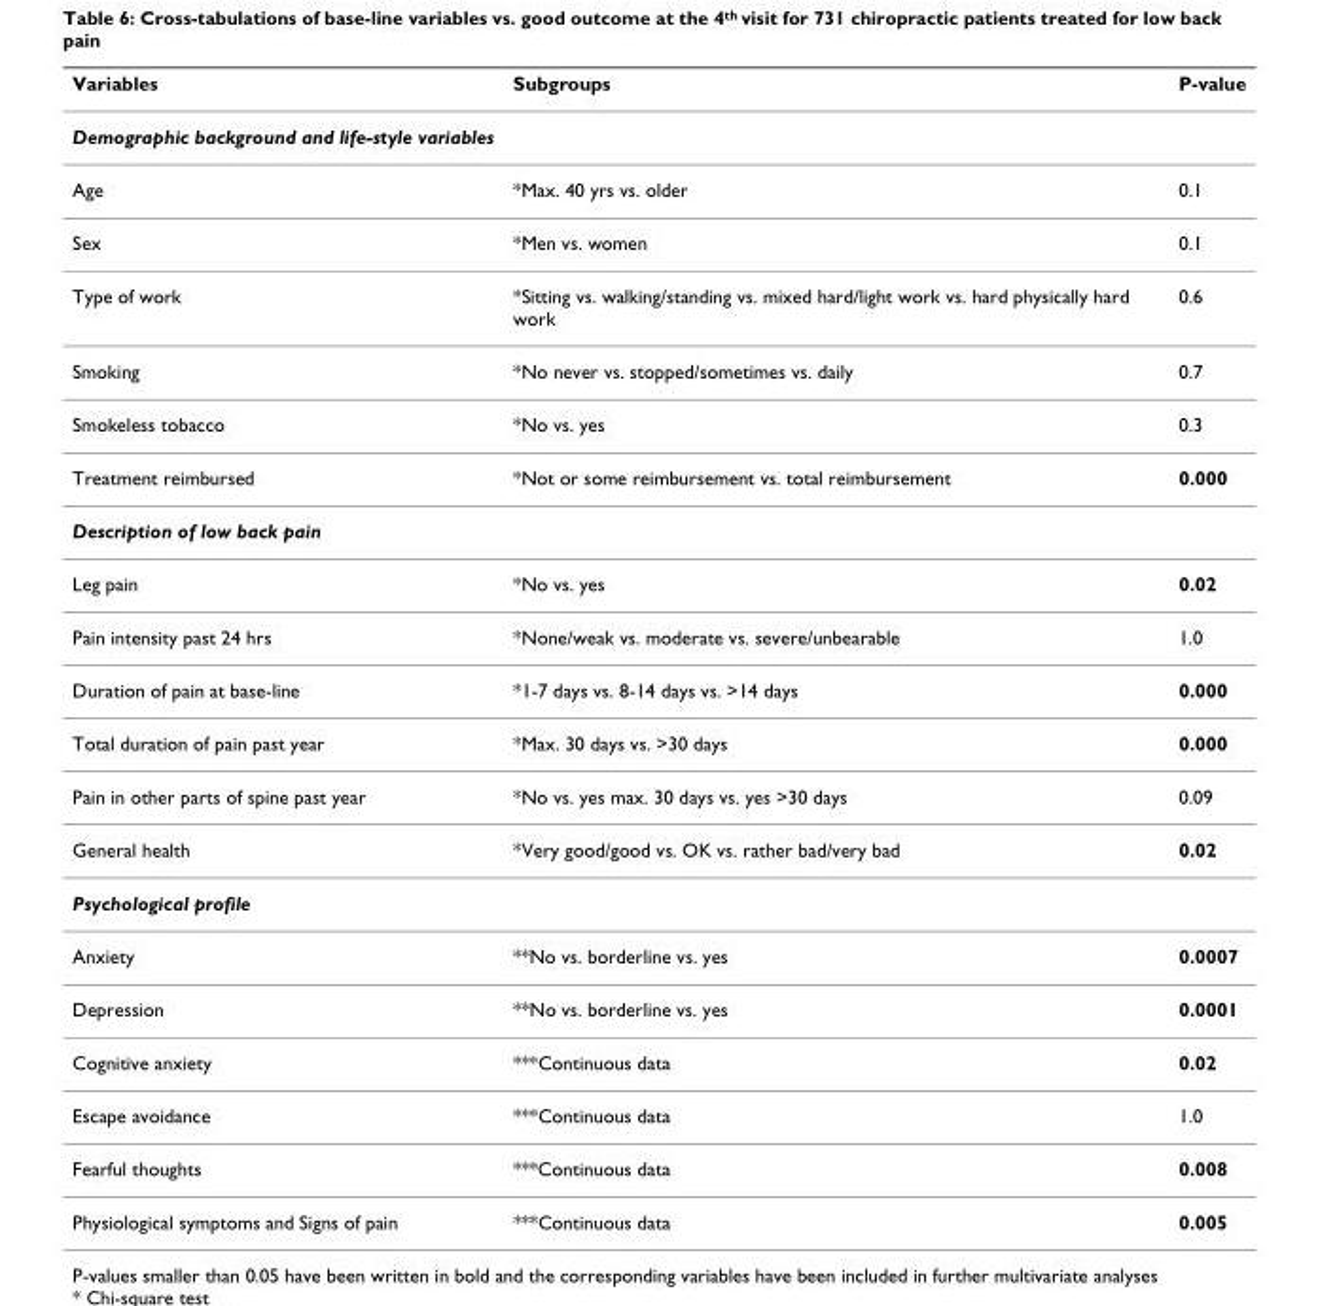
<table><thead><tr><td>Variables</td><td>Subgroups</td><td>P-value</td></tr></thead><tbody><tr><td colspan="3">Demographic background and life-style variables</td></tr><tr><td>Age</td><td>*Max. 40 yrs vs. older</td><td>0.1</td></tr><tr><td>Sex</td><td>*Men vs. women</td><td>0.1</td></tr><tr><td>Type of work</td><td>*Sitting vs. walking/standing vs. mixed hard/light work vs. hard physically hard work</td><td>0.6</td></tr><tr><td>Smoking</td><td>*No never vs. stopped/sometimes vs. daily</td><td>0.7</td></tr><tr><td>Smokeless tobacco</td><td>*No vs. yes</td><td>0.3</td></tr><tr><td>Treatment reimbursed</td><td>*Not or some reimbursement vs. total reimbursement</td><td>0.000</td></tr><tr><td colspan="3">Description of low back pain</td></tr><tr><td>Leg pain</td><td>*No vs. yes</td><td>0.02</td></tr><tr><td>Pain intensity past 24 hrs</td><td>*None/weak vs. moderate vs. severe/unbearable</td><td>1.0</td></tr><tr><td>Duration of pain at base-line</td><td>*1-7 days vs. 8-14 days vs. &gt;14 days</td><td>0.000</td></tr><tr><td>Total duration of pain past year</td><td>*Max. 30 days vs. &gt;30 days</td><td>0.000</td></tr><tr><td>Pain in other parts of spine past year</td><td>*No vs. yes max. 30 days vs. yes &gt;30 days</td><td>0.09</td></tr><tr><td>General health</td><td>*Very good/good vs. OK vs. rather bad/very bad</td><td>0.02</td></tr><tr><td colspan="3">Psychological profile</td></tr><tr><td>Anxiety</td><td>**No vs. borderline vs. yes</td><td>0.0007</td></tr><tr><td>Depression</td><td>**No vs. borderline vs. yes</td><td>0.0001</td></tr><tr><td>Cognitive anxiety</td><td>***Continuous data</td><td>0.02</td></tr><tr><td>Escape avoidance</td><td>***Continuous data</td><td>1.0</td></tr><tr><td>Fearful thoughts</td><td>***Continuous data</td><td>0.008</td></tr><tr><td>Physiological symptoms and Signs of pain</td><td>***Continuous data</td><td>0.005</td></tr></tbody></table>